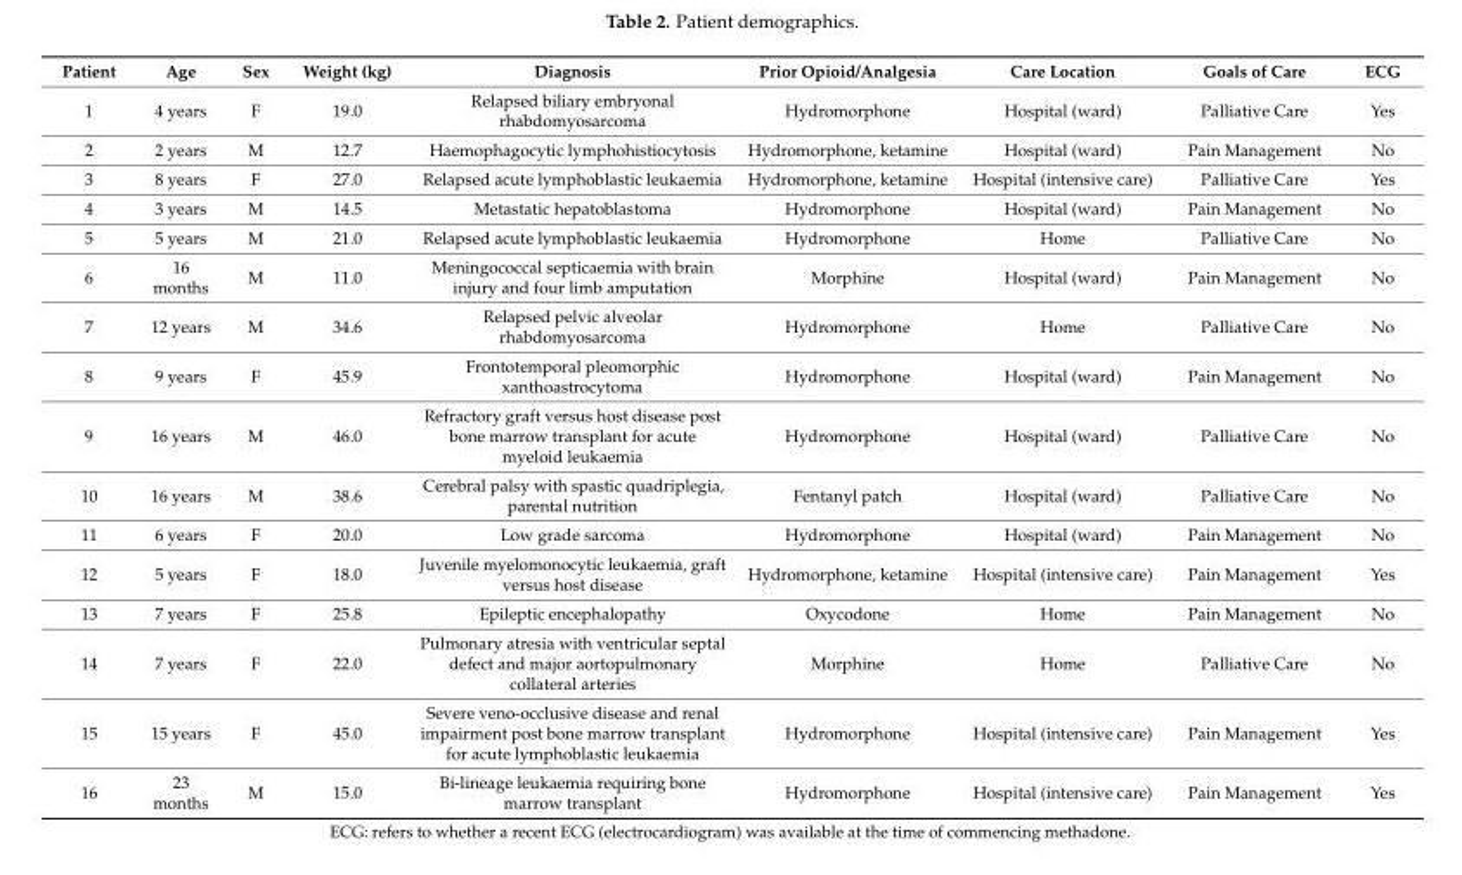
<table><thead><tr><td>Patient</td><td>Age</td><td>Sex</td><td>Weight (kg)</td><td>Diagnosis</td><td>Prior Opioid/Analgesia</td><td>Care Location</td><td>Goals of Care</td><td>ECG</td></tr></thead><tbody><tr><td>1</td><td>4 years</td><td>F</td><td>19.0</td><td>Relapsed biliary embryonal rhabdomyosarcoma</td><td>Hydromorphone</td><td>Hospital (ward)</td><td>Palliative Care</td><td>Yes</td></tr><tr><td>2</td><td>2 years</td><td>M</td><td>12.7</td><td>Haemophagocytic lymphohistiocytosis</td><td>Hydromorphone, ketamine</td><td>Hospital (ward)</td><td>Pain Management</td><td>No</td></tr><tr><td>3</td><td>8 years</td><td>F</td><td>27.0</td><td>Relapsed acute lymphoblastic leukaemia</td><td>Hydromorphone, ketamine</td><td>Hospital (intensive care)</td><td>Palliative Care</td><td>Yes</td></tr><tr><td>4</td><td>3 years</td><td>M</td><td>14.5</td><td>Metastatic hepatoblastoma</td><td>Hydromorphone</td><td>Hospital (ward)</td><td>Pain Management</td><td>No</td></tr><tr><td>5</td><td>5 years</td><td>M</td><td>21.0</td><td>Relapsed acute lymphoblastic leukaemia</td><td>Hydromorphone</td><td>Home</td><td>Palliative Care</td><td>No</td></tr><tr><td>6</td><td>16 months</td><td>M</td><td>11.0</td><td>Meningococcal septicaemia with brain injury and four limb amputation</td><td>Morphine</td><td>Hospital (ward)</td><td>Pain Management</td><td>No</td></tr><tr><td>7</td><td>12 years</td><td>M</td><td>34.6</td><td>Relapsed pelvic alveolar rhabdomyosarcoma</td><td>Hydromorphone</td><td>Home</td><td>Palliative Care</td><td>No</td></tr><tr><td>8</td><td>9 years</td><td>F</td><td>45.9</td><td>Frontotemporal pleomorphic xanthoastrocytoma</td><td>Hydromorphone</td><td>Hospital (ward)</td><td>Pain Management</td><td>No</td></tr><tr><td>9</td><td>16 years</td><td>M</td><td>46.0</td><td>Refractory graft versus host disease post bone marrow transplant for acute myeloid leukaemia</td><td>Hydromorphone</td><td>Hospital (ward)</td><td>Palliative Care</td><td>No</td></tr><tr><td>10</td><td>16 years</td><td>M</td><td>38.6</td><td>Cerebral palsy with spastic quadriplegia, parental nutrition</td><td>Fentanyl patch</td><td>Hospital (ward)</td><td>Palliative Care</td><td>No</td></tr><tr><td>11</td><td>6 years</td><td>F</td><td>20.0</td><td>Low grade sarcoma</td><td>Hydromorphone</td><td>Hospital (ward)</td><td>Pain Management</td><td>No</td></tr><tr><td>12</td><td>5 years</td><td>F</td><td>18.0</td><td>Juvenile myelomonocytic leukaemia, graft versus host disease</td><td>Hydromorphone, ketamine</td><td>Hospital (intensive care)</td><td>Pain Management</td><td>Yes</td></tr><tr><td>13</td><td>7 years</td><td>F</td><td>25.8</td><td>Epileptic encephalopathy</td><td>Oxycodone</td><td>Home</td><td>Pain Management</td><td>No</td></tr><tr><td>14</td><td>7 years</td><td>F</td><td>22.0</td><td>Pulmonary atresia with ventricular septal defect and major aortopulmonary collateral arteries</td><td>Morphine</td><td>Home</td><td>Palliative Care</td><td>No</td></tr><tr><td>15</td><td>15 years</td><td>F</td><td>45.0</td><td>Severe veno-occlusive disease and renal impairment post bone marrow transplant for acute lymphoblastic leukaemia</td><td>Hydromorphone</td><td>Hospital (intensive care)</td><td>Pain Management</td><td>Yes</td></tr><tr><td>16</td><td>23 months</td><td>M</td><td>15.0</td><td>Bi-lineage leukaemia requiring bone marrow transplant</td><td>Hydromorphone</td><td>Hospital (intensive care)</td><td>Pain Management</td><td>Yes</td></tr></tbody></table>